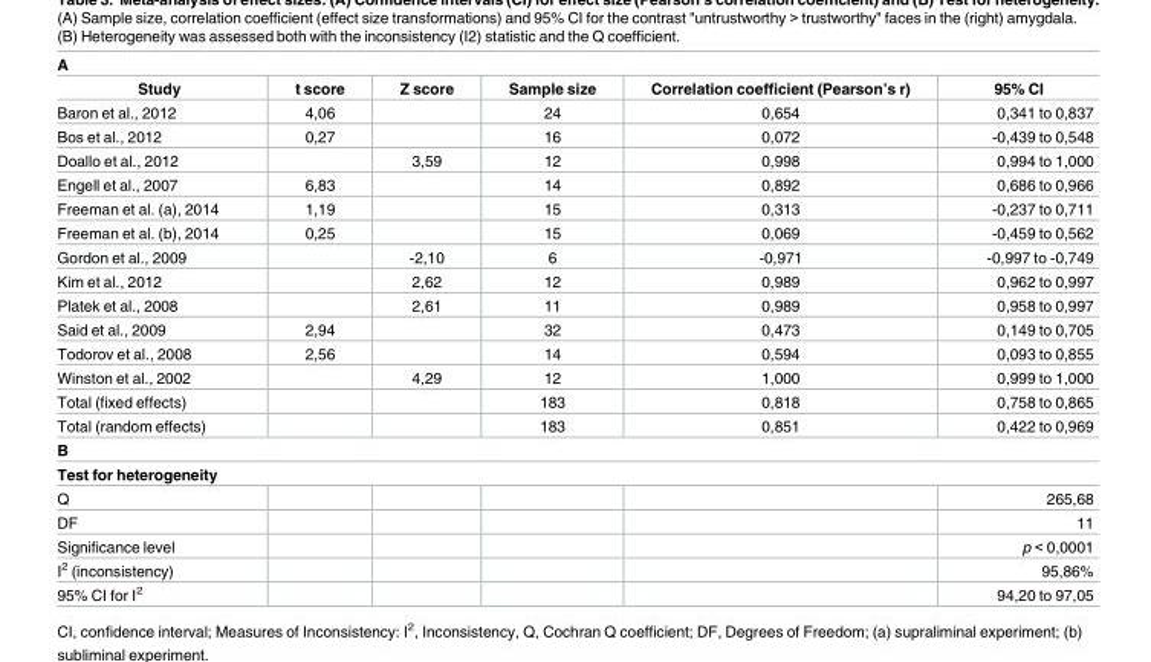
<table><tbody><tr><td colspan="6">A</td></tr><tr><td>Study</td><td>t score</td><td>Z score</td><td>Sample size</td><td>Correlation coefficient (Pearson’s r)</td><td>95% CI</td></tr><tr><td>Baron et al., 2012</td><td>4,06</td><td></td><td>24</td><td>0,654</td><td>0,341 to 0,837</td></tr><tr><td>Bos et al., 2012</td><td>0,27</td><td></td><td>16</td><td>0,072</td><td>-0,439 to 0,548</td></tr><tr><td>Doallo et al., 2012</td><td></td><td>3,59</td><td>12</td><td>0,998</td><td>0,994 to 1,000</td></tr><tr><td>Engell et al., 2007</td><td>6,83</td><td></td><td>14</td><td>0,892</td><td>0,686 to 0,966</td></tr><tr><td>Freeman et al. (a), 2014</td><td>1,19</td><td></td><td>15</td><td>0,313</td><td>-0,237 to 0,711</td></tr><tr><td>Freeman et al. (b), 2014</td><td>0,25</td><td></td><td>15</td><td>0,069</td><td>-0,459 to 0,562</td></tr><tr><td>Gordon et al., 2009</td><td></td><td>-2,10</td><td>6</td><td>-0,971</td><td>-0,997 to -0,749</td></tr><tr><td>Kim et al., 2012</td><td></td><td>2,62</td><td>12</td><td>0,989</td><td>0,962 to 0,997</td></tr><tr><td>Platek et al., 2008</td><td></td><td>2,61</td><td>11</td><td>0,989</td><td>0,958 to 0,997</td></tr><tr><td>Said et al., 2009</td><td>2,94</td><td></td><td>32</td><td>0,473</td><td>0,149 to 0,705</td></tr><tr><td>Todorov et al., 2008</td><td>2,56</td><td></td><td>14</td><td>0,594</td><td>0,093 to 0,855</td></tr><tr><td>Winston et al., 2002</td><td></td><td>4,29</td><td>12</td><td>1,000</td><td>0,999 to 1,000</td></tr><tr><td>Total (fixed effects)</td><td></td><td></td><td>183</td><td>0,818</td><td>0,758 to 0,865</td></tr><tr><td>Total (random effects)</td><td></td><td></td><td>183</td><td>0,851</td><td>0,422 to 0,969</td></tr><tr><td colspan="6">B</td></tr><tr><td colspan="6">Test for heterogeneity</td></tr><tr><td>Q</td><td></td><td></td><td></td><td></td><td>265,68</td></tr><tr><td>DF</td><td></td><td></td><td></td><td></td><td>11</td></tr><tr><td>Significance level</td><td></td><td></td><td></td><td></td><td>p &lt; 0,0001</td></tr><tr><td>I<sup>2</sup> (inconsistency)</td><td></td><td></td><td></td><td></td><td>95,86%</td></tr><tr><td>95% CI for I<sup>2</sup></td><td></td><td></td><td></td><td></td><td>94,20 to 97,05</td></tr></tbody></table>